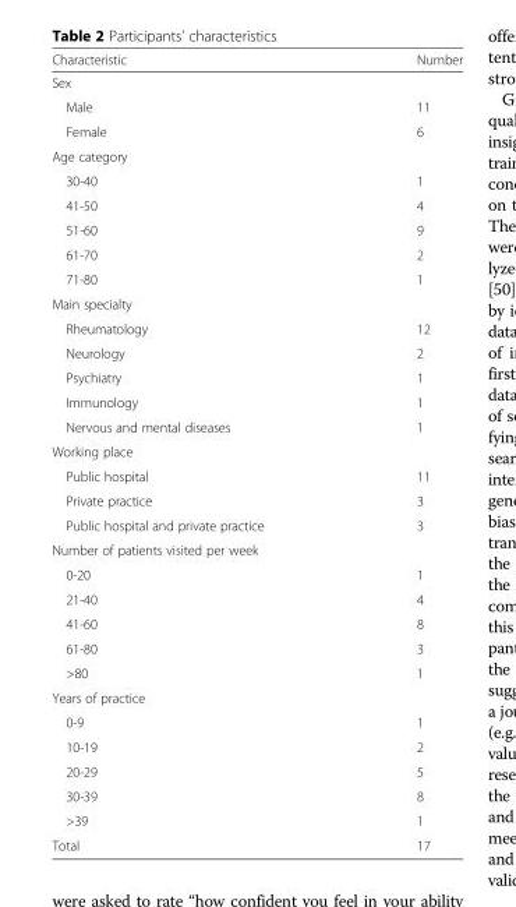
<table><thead><tr><td>Characteristic</td><td>Number</td></tr></thead><tbody><tr><td colspan="2">Sex</td></tr><tr><td>Male</td><td>11</td></tr><tr><td>Female</td><td>6</td></tr><tr><td colspan="2">Age category</td></tr><tr><td>30-40</td><td>1</td></tr><tr><td>41-50</td><td>4</td></tr><tr><td>51-60</td><td>9</td></tr><tr><td>61-70</td><td>2</td></tr><tr><td>71-80</td><td>1</td></tr><tr><td colspan="2">Main specialty</td></tr><tr><td>Rheumatology</td><td>12</td></tr><tr><td>Neurology</td><td>2</td></tr><tr><td>Psychiatry</td><td>1</td></tr><tr><td>Immunology</td><td>1</td></tr><tr><td>Nervous and mental diseases</td><td>1</td></tr><tr><td colspan="2">Working place</td></tr><tr><td>Public hospital</td><td>11</td></tr><tr><td>Private practice</td><td>3</td></tr><tr><td>Public hospital and private practice</td><td>3</td></tr><tr><td colspan="2">Number of patients visited per week</td></tr><tr><td>0-20</td><td>1</td></tr><tr><td>21-40</td><td>4</td></tr><tr><td>41-60</td><td>8</td></tr><tr><td>61-80</td><td>3</td></tr><tr><td>&gt;80</td><td>1</td></tr><tr><td colspan="2">Years of practice</td></tr><tr><td>0-9</td><td>1</td></tr><tr><td>10-19</td><td>2</td></tr><tr><td>20-29</td><td>5</td></tr><tr><td>30-39</td><td>8</td></tr><tr><td>&gt;39</td><td>1</td></tr><tr><td>Total</td><td>17</td></tr></tbody></table>